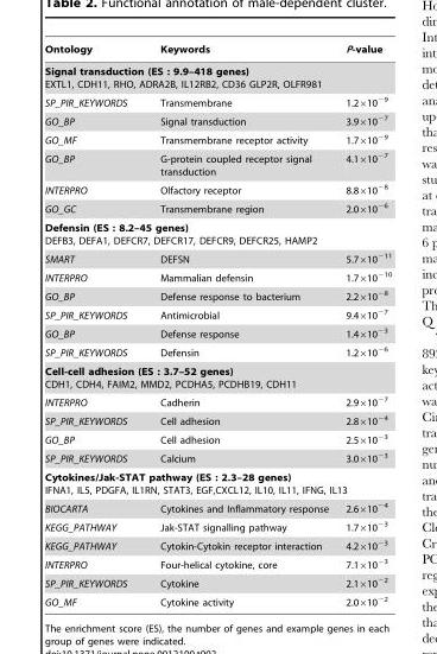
<table><thead><tr><td>Ontology</td><td>Keywords</td><td>P-value</td></tr></thead><tbody><tr><td colspan="3">Signal transduction (ES : 9.9–418 genes) EXTL1, CDH11, RHO, ADRA2B, IL12RB2, CD36 GLP2R, OLFR981</td></tr><tr><td>SP_PIR_KEYWORDS</td><td>Transmembrane</td><td>1.2×10<sup>−9</sup></td></tr><tr><td>GO_BP</td><td>Signal transduction</td><td>3.9×10<sup>−7</sup></td></tr><tr><td>GO_MF</td><td>Transmembrane receptor activity</td><td>1.7×10<sup>−9</sup></td></tr><tr><td>GO_BP</td><td>G-protein coupled receptor signal transduction</td><td>4.1×10<sup>−7</sup></td></tr><tr><td>INTERPRO</td><td>Olfactory receptor</td><td>8.8×10<sup>−8</sup></td></tr><tr><td>GO_GC</td><td>Transmembrane region</td><td>2.0×10<sup>−6</sup></td></tr><tr><td colspan="3">Defensin (ES : 8.2–45 genes) DEFB3, DEFA1, DEFCR7, DEFCR17, DEFCR9, DEFCR25, HAMP2</td></tr><tr><td>SMART</td><td>DEFSN</td><td>5.7×10<sup>−11</sup></td></tr><tr><td>INTERPRO</td><td>Mammalian defensin</td><td>1.7×10<sup>−10</sup></td></tr><tr><td>GO_BP</td><td>Defense response to bacterium</td><td>2.2×10<sup>−8</sup></td></tr><tr><td>SP_PIR_KEYWORDS</td><td>Antimicrobial</td><td>9.4×10<sup>−7</sup></td></tr><tr><td>GO_BP</td><td>Defense response</td><td>1.4×10<sup>−3</sup></td></tr><tr><td>SP_PIR_KEYWORDS</td><td>Defensin</td><td>1.2×10<sup>−6</sup></td></tr><tr><td colspan="3">Cell-cell adhesion (ES : 3.7–52 genes) CDH1, CDH4, FAIM2, MMD2, PCDHA5, PCDHB19, CDH11</td></tr><tr><td>INTERPRO</td><td>Cadherin</td><td>2.9×10<sup>−7</sup></td></tr><tr><td>SP_PIR_KEYWORDS</td><td>Cell adhesion</td><td>2.8×10<sup>−4</sup></td></tr><tr><td>GO_BP</td><td>Cell adhesion</td><td>2.5×10<sup>−3</sup></td></tr><tr><td>SP_PIR_KEYWORDS</td><td>Calcium</td><td>3.0×10<sup>−3</sup></td></tr><tr><td colspan="3">Cytokines/Jak-STAT pathway (ES : 2.3–28 genes) IFNA1, IL5, PDGFA, IL1RN, STAT3, EGF,CXCL12, IL10, IL11, IFNG, IL13</td></tr><tr><td>BIOCARTA</td><td>Cytokines and Inflammatory response</td><td>2.6×10<sup>−4</sup></td></tr><tr><td>KEGG_PATHWAY</td><td>Jak-STAT signalling pathway</td><td>1.7×10<sup>−3</sup></td></tr><tr><td>KEGG_PATHWAY</td><td>Cytokin-Cytokin receptor interaction</td><td>4.2×10<sup>−3</sup></td></tr><tr><td>INTERPRO</td><td>Four-helical cytokine, core</td><td>7.1×10<sup>−3</sup></td></tr><tr><td>SP_PIR_KEYWORDS</td><td>Cytokine</td><td>2.1×10<sup>−2</sup></td></tr><tr><td>GO_MF</td><td>Cytokine activity</td><td>2.0×10<sup>−2</sup></td></tr></tbody></table>